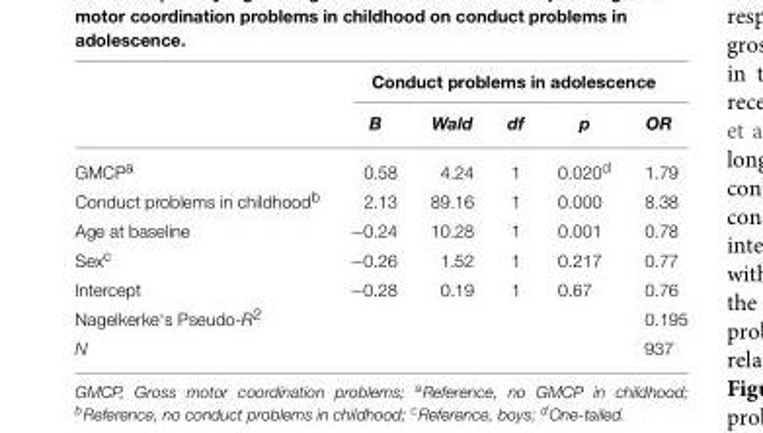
<table><thead><tr><td rowspan="2"></td><td colspan="5">Conduct problems in adolescence</td></tr><tr><td>B</td><td>Wald</td><td>df</td><td>p</td><td>OR</td></tr></thead><tbody><tr><td>GMCP<sup>a</sup></td><td>0.58</td><td>4.24</td><td>1</td><td>0.020<sup>d</sup></td><td>1.79</td></tr><tr><td>Conduct problems in childhood<sup>b</sup></td><td>2.13</td><td>89.16</td><td>1</td><td>0.000</td><td>8.38</td></tr><tr><td>Age at baseline</td><td>−0.24</td><td>10.28</td><td>1</td><td>0.001</td><td>0.78</td></tr><tr><td>Sex<sup>c</sup></td><td>−0.26</td><td>1.52</td><td>1</td><td>0.217</td><td>0.77</td></tr><tr><td>Intercept</td><td>−0.28</td><td>0.19</td><td>1</td><td>0.67</td><td>0.76</td></tr><tr><td>Nagelkerke‘s Pseudo-R<sup>2</sup></td><td></td><td></td><td></td><td></td><td>0.195</td></tr><tr><td>N</td><td></td><td></td><td></td><td></td><td>937</td></tr></tbody></table>